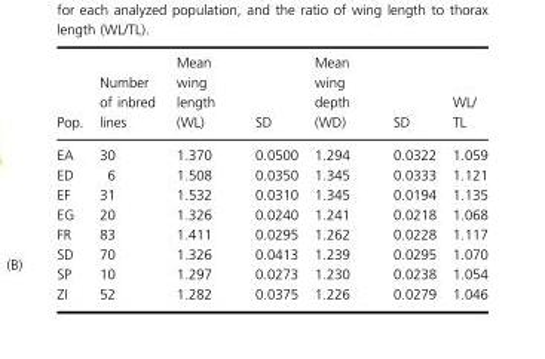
<table><thead><tr><td>Pop.</td><td>Number of inbred lines</td><td>Mean wing length (WL)</td><td>SD</td><td>Mean wing depth (WD)</td><td>SD</td><td>WL/ TL</td></tr></thead><tbody><tr><td>EA</td><td>30</td><td>1.370</td><td>0.0500</td><td>1.294</td><td>0.0322</td><td>1.059</td></tr><tr><td>ED</td><td>6</td><td>1.508</td><td>0.0350</td><td>1.345</td><td>0.0333</td><td>1.121</td></tr><tr><td>EF</td><td>31</td><td>1.532</td><td>0.0310</td><td>1.345</td><td>0.0194</td><td>1.135</td></tr><tr><td>EG</td><td>20</td><td>1.326</td><td>0.0240</td><td>1.241</td><td>0.0218</td><td>1.068</td></tr><tr><td>FR</td><td>83</td><td>1.411</td><td>0.0295</td><td>1.262</td><td>0.0228</td><td>1.117</td></tr><tr><td>SD</td><td>70</td><td>1.326</td><td>0.0413</td><td>1.239</td><td>0.0295</td><td>1.070</td></tr><tr><td>SP</td><td>10</td><td>1.297</td><td>0.0273</td><td>1.230</td><td>0.0238</td><td>1.054</td></tr><tr><td>ZI</td><td>52</td><td>1.282</td><td>0.0375</td><td>1.226</td><td>0.0279</td><td>1.046</td></tr></tbody></table>